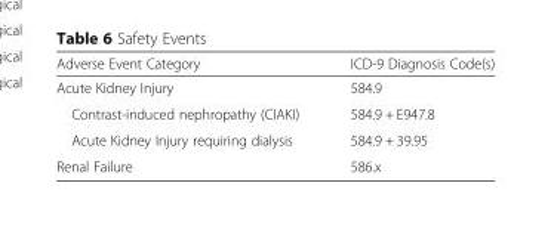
<table><thead><tr><td>Adverse Event Category</td><td>ICD-9 Diagnosis Code(s)</td></tr></thead><tbody><tr><td>Acute Kidney Injury</td><td>584.9</td></tr><tr><td>Contrast-induced nephropathy (CIAKI)</td><td>584.9 + E947.8</td></tr><tr><td>Acute Kidney Injury requiring dialysis</td><td>584.9 + 39.95</td></tr><tr><td>Renal Failure</td><td>586.x</td></tr></tbody></table>